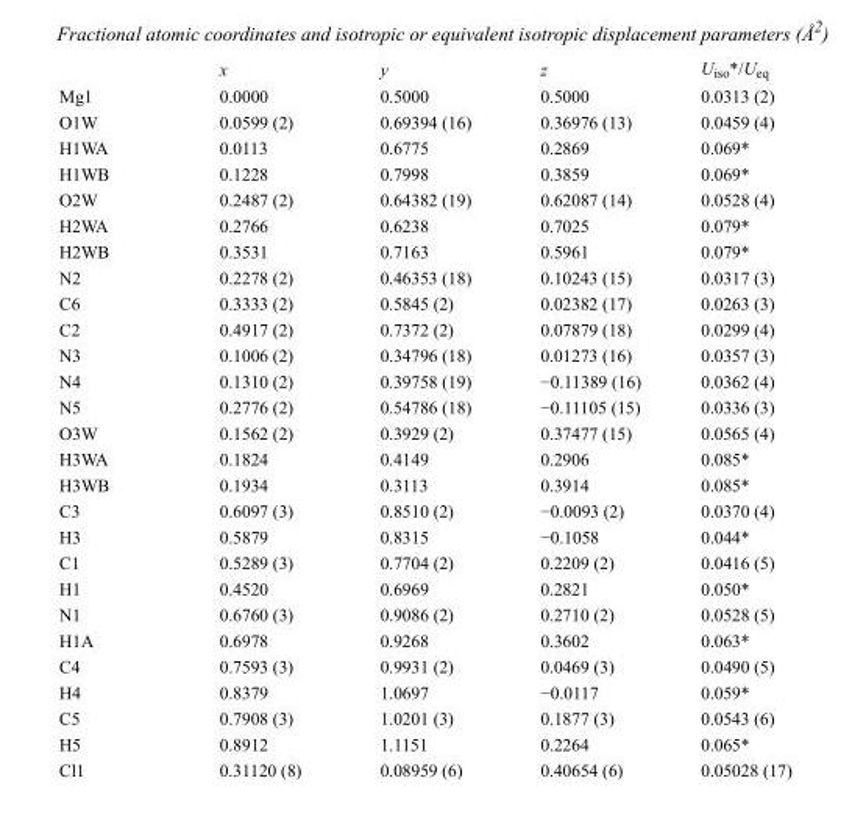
<table><thead><tr><td></td><td>x</td><td>y</td><td>z</td><td>U<sub>iso</sub>*/U<sub>eq</sub></td></tr></thead><tbody><tr><td>Mg1</td><td>0.0000</td><td>0.5000</td><td>0.5000</td><td>0.0313 (2)</td></tr><tr><td>O1W</td><td>0.0599 (2)</td><td>0.69394 (16)</td><td>0.36976 (13)</td><td>0.0459 (4)</td></tr><tr><td>H1WA</td><td>0.0113</td><td>0.6775</td><td>0.2869</td><td>0.069*</td></tr><tr><td>H1WB</td><td>0.1228</td><td>0.7998</td><td>0.3859</td><td>0.069*</td></tr><tr><td>O2W</td><td>0.2487 (2)</td><td>0.64382 (19)</td><td>0.62087 (14)</td><td>0.0528 (4)</td></tr><tr><td>H2WA</td><td>0.2766</td><td>0.6238</td><td>0.7025</td><td>0.079*</td></tr><tr><td>H2WB</td><td>0.3531</td><td>0.7163</td><td>0.5961</td><td>0.079*</td></tr><tr><td>N2</td><td>0.2278 (2)</td><td>0.46353 (18)</td><td>0.10243 (15)</td><td>0.0317 (3)</td></tr><tr><td>C6</td><td>0.3333 (2)</td><td>0.5845 (2)</td><td>0.02382 (17)</td><td>0.0263 (3)</td></tr><tr><td>C2</td><td>0.4917 (2)</td><td>0.7372 (2)</td><td>0.07879 (18)</td><td>0.0299 (4)</td></tr><tr><td>N3</td><td>0.1006 (2)</td><td>0.34796 (18)</td><td>0.01273 (16)</td><td>0.0357 (3)</td></tr><tr><td>N4</td><td>0.1310 (2)</td><td>0.39758 (19)</td><td>−0.11389 (16)</td><td>0.0362 (4)</td></tr><tr><td>N5</td><td>0.2776 (2)</td><td>0.54786 (18)</td><td>−0.11105 (15)</td><td>0.0336 (3)</td></tr><tr><td>O3W</td><td>0.1562 (2)</td><td>0.3929 (2)</td><td>0.37477 (15)</td><td>0.0565 (4)</td></tr><tr><td>H3WA</td><td>0.1824</td><td>0.4149</td><td>0.2906</td><td>0.085*</td></tr><tr><td>H3WB</td><td>0.1934</td><td>0.3113</td><td>0.3914</td><td>0.085*</td></tr><tr><td>C3</td><td>0.6097 (3)</td><td>0.8510 (2)</td><td>−0.0093 (2)</td><td>0.0370 (4)</td></tr><tr><td>H3</td><td>0.5879</td><td>0.8315</td><td>−0.1058</td><td>0.044*</td></tr><tr><td>C1</td><td>0.5289 (3)</td><td>0.7704 (2)</td><td>0.2209 (2)</td><td>0.0416 (5)</td></tr><tr><td>H1</td><td>0.4520</td><td>0.6969</td><td>0.2821</td><td>0.050*</td></tr><tr><td>N1</td><td>0.6760 (3)</td><td>0.9086 (2)</td><td>0.2710 (2)</td><td>0.0528 (5)</td></tr><tr><td>H1A</td><td>0.6978</td><td>0.9268</td><td>0.3602</td><td>0.063*</td></tr><tr><td>C4</td><td>0.7593 (3)</td><td>0.9931 (2)</td><td>0.0469 (3)</td><td>0.0490 (5)</td></tr><tr><td>H4</td><td>0.8379</td><td>1.0697</td><td>−0.0117</td><td>0.059*</td></tr><tr><td>C5</td><td>0.7908 (3)</td><td>1.0201 (3)</td><td>0.1877 (3)</td><td>0.0543 (6)</td></tr><tr><td>H5</td><td>0.8912</td><td>1.1151</td><td>0.2264</td><td>0.065*</td></tr><tr><td>Cl1</td><td>0.31120 (8)</td><td>0.08959 (6)</td><td>0.40654 (6)</td><td>0.05028 (17)</td></tr></tbody></table>